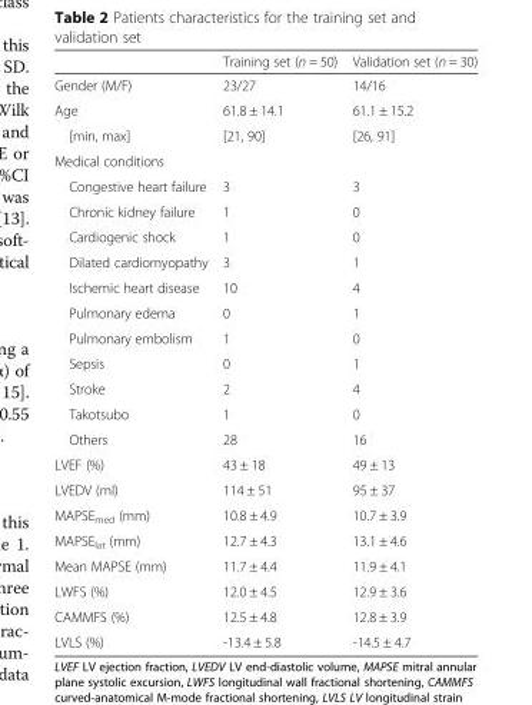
<table><thead><tr><td></td><td>Training set (n = 50)</td><td>Validation set (n = 30)</td></tr></thead><tbody><tr><td>Gender (M/F)</td><td>23/27</td><td>14/16</td></tr><tr><td>Age</td><td>61.8 ± 14.1</td><td>61.1 ± 15.2</td></tr><tr><td>[min, max]</td><td>[21, 90]</td><td>[26, 91]</td></tr><tr><td colspan="3">Medical conditions</td></tr><tr><td>Congestive heart failure</td><td>3</td><td>3</td></tr><tr><td>Chronic kidney failure</td><td>1</td><td>0</td></tr><tr><td>Cardiogenic shock</td><td>1</td><td>0</td></tr><tr><td>Dilated cardiomyopathy</td><td>3</td><td>1</td></tr><tr><td>Ischemic heart disease</td><td>10</td><td>4</td></tr><tr><td>Pulmonary edema</td><td>0</td><td>1</td></tr><tr><td>Pulmonary embolism</td><td>1</td><td>0</td></tr><tr><td>Sepsis</td><td>0</td><td>1</td></tr><tr><td>Stroke</td><td>2</td><td>4</td></tr><tr><td>Takotsubo</td><td>1</td><td>0</td></tr><tr><td>Others</td><td>28</td><td>16</td></tr><tr><td>LVEF (%)</td><td>43 ± 18</td><td>49 ± 13</td></tr><tr><td>LVEDV (ml)</td><td>114 ± 51</td><td>95 ± 37</td></tr><tr><td>MAPSE<sub>med</sub> (mm)</td><td>10.8 ± 4.9</td><td>10.7 ± 3.9</td></tr><tr><td>MAPSE<sub>lat</sub> (mm)</td><td>12.7 ± 4.3</td><td>13.1 ± 4.6</td></tr><tr><td>Mean MAPSE (mm)</td><td>11.7 ± 4.4</td><td>11.9 ± 4.1</td></tr><tr><td>LWFS (%)</td><td>12.0 ± 4.5</td><td>12.9 ± 3.6</td></tr><tr><td>CAMMFS (%)</td><td>12.5 ± 4.8</td><td>12.8 ± 3.9</td></tr><tr><td>LVLS (%)</td><td>-13.4 ± 5.8</td><td>-14.5 ± 4.7</td></tr></tbody></table>